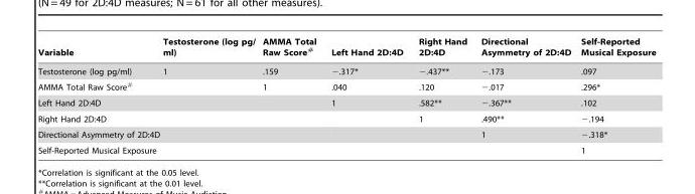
<table><thead><tr><td>Variable</td><td>Testosterone (log pg/ ml)</td><td>AMMA Total Raw Score#</td><td>Left Hand 2D:4D</td><td>Right Hand 2D:4D</td><td>Directional Asymmetry of 2D:4D</td><td>Self-Reported Musical Exposure</td></tr></thead><tbody><tr><td>Testosterone (log pg/ml)</td><td>1</td><td>.159</td><td>−.317*</td><td>−.437**</td><td>−.173</td><td>.097</td></tr><tr><td>AMMA Total Raw Score#</td><td></td><td>1</td><td>.040</td><td>.120</td><td>−.017</td><td>.296*</td></tr><tr><td>Left Hand 2D:4D</td><td></td><td></td><td>1</td><td>.582**</td><td>−.367**</td><td>.102</td></tr><tr><td>Right Hand 2D:4D</td><td></td><td></td><td></td><td>1</td><td>.490**</td><td>−.194</td></tr><tr><td>Directional Asymmetry of 2D:4D</td><td></td><td></td><td></td><td></td><td>1</td><td>−.318*</td></tr><tr><td>Self-Reported Musical Exposure</td><td></td><td></td><td></td><td></td><td></td><td>1</td></tr></tbody></table>